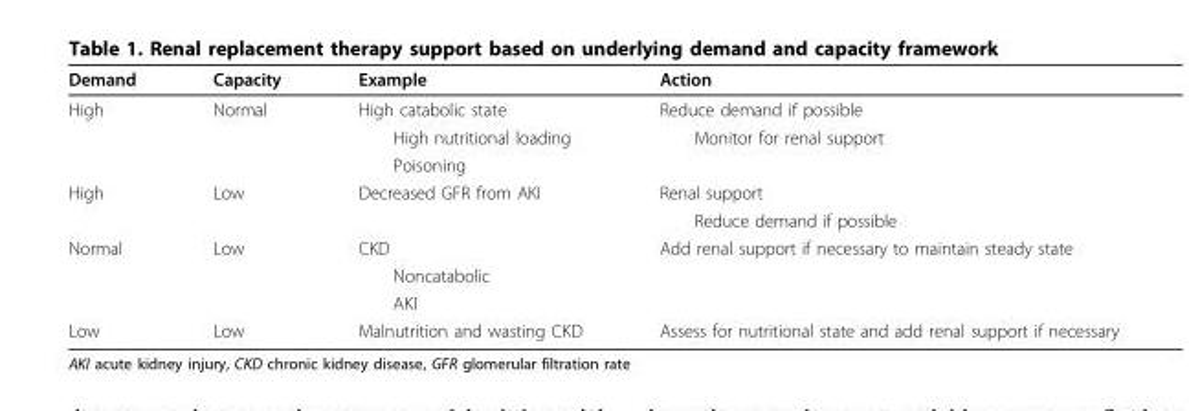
<table><thead><tr><td>Demand</td><td>Capacity</td><td>Example</td><td>Action</td></tr></thead><tbody><tr><td rowspan="3">High</td><td>Normal</td><td>High catabolic state</td><td>Reduce demand if possible</td></tr><tr><td></td><td>High nutritional loading</td><td>Monitor for renal support</td></tr><tr><td></td><td>Poisoning</td><td></td></tr><tr><td rowspan="2">High</td><td>Low</td><td>Decreased GFR from AKI</td><td>Renal support</td></tr><tr><td></td><td></td><td>Reduce demand if possible</td></tr><tr><td rowspan="3">Normal</td><td>Low</td><td>CKD</td><td>Add renal support if necessary to maintain steady state</td></tr><tr><td></td><td>Noncatabolic</td><td></td></tr><tr><td></td><td>AKI</td><td></td></tr><tr><td>Low</td><td>Low</td><td>Malnutrition and wasting CKD</td><td>Assess for nutritional state and add renal support if necessary</td></tr></tbody></table>